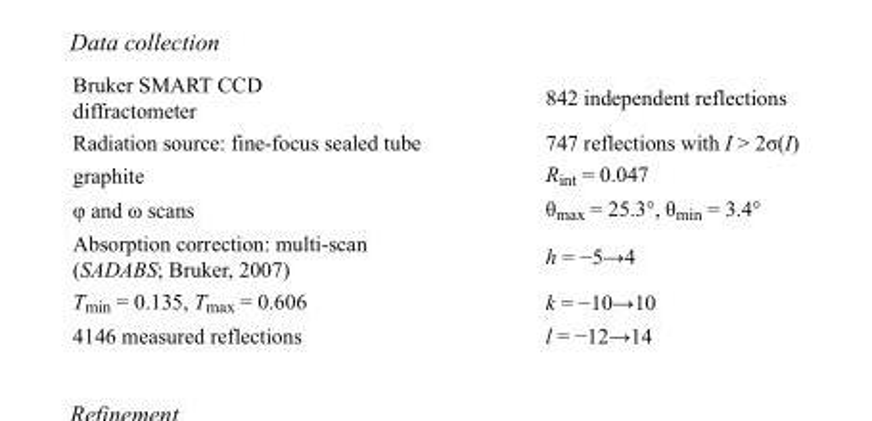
<table><tbody><tr><td>Bruker SMART CCD diffractometer</td><td>842 independent reflections</td></tr><tr><td>Radiation source: fine-focus sealed tube</td><td>747 reflections with I &gt; 2σ(I)</td></tr><tr><td>graphite</td><td>R<sub>int</sub> = 0.047</td></tr><tr><td>φ and ω scans</td><td>θ<sub>max</sub> = 25.3°, θ<sub>min</sub> = 3.4°</td></tr><tr><td>Absorption correction: multi-scan (SADABS; Bruker, 2007)</td><td>h = −5→4</td></tr><tr><td>T<sub>min</sub> = 0.135, T<sub>max</sub> = 0.606</td><td>k = −10→10</td></tr><tr><td>4146 measured reflections</td><td>l = −12→14</td></tr></tbody></table>